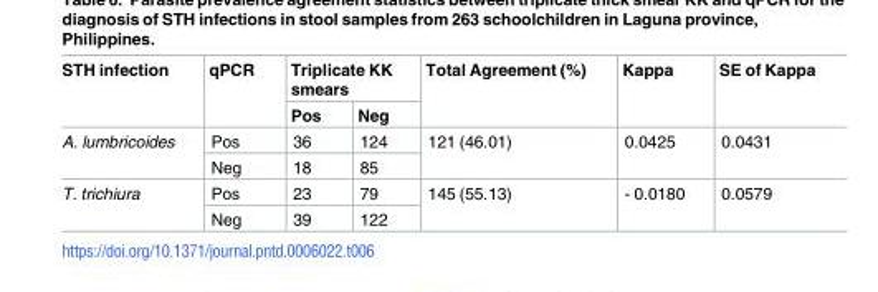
<table><thead><tr><td rowspan="2">STH infection</td><td rowspan="2">qPCR</td><td colspan="2">Triplicate KK smears</td><td rowspan="2">Total Agreement (%)</td><td rowspan="2">Kappa</td><td rowspan="2">SE of Kappa</td></tr><tr><td>Pos</td><td>Neg</td></tr></thead><tbody><tr><td rowspan="2">A. lumbricoides</td><td>Pos</td><td>36</td><td>124</td><td rowspan="2">121 (46.01)</td><td rowspan="2">0.0425</td><td rowspan="2">0.0431</td></tr><tr><td>Neg</td><td>18</td><td>85</td></tr><tr><td rowspan="2">T. trichiura</td><td>Pos</td><td>23</td><td>79</td><td rowspan="2">145 (55.13)</td><td rowspan="2">- 0.0180</td><td rowspan="2">0.0579</td></tr><tr><td>Neg</td><td>39</td><td>122</td></tr></tbody></table>